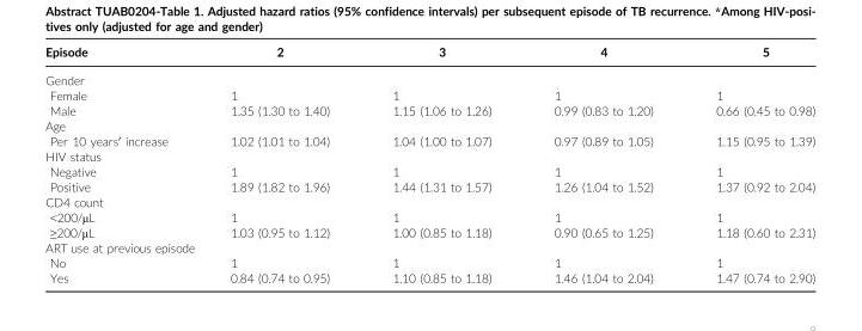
<table><thead><tr><td>Episode</td><td>2</td><td>3</td><td>4</td><td>5</td></tr></thead><tbody><tr><td colspan="5">Gender</td></tr><tr><td>Female</td><td>1</td><td>1</td><td>1</td><td>1</td></tr><tr><td>Male</td><td>1.35 (1.30 to 1.40)</td><td>1.15 (1.06 to 1.26)</td><td>0.99 (0.83 to 1.20)</td><td>0.66 (0.45 to 0.98)</td></tr><tr><td colspan="5">Age</td></tr><tr><td>Per 10 years′ increase</td><td>1.02 (1.01 to 1.04)</td><td>1.04 (1.00 to 1.07)</td><td>0.97 (0.89 to 1.05)</td><td>1.15 (0.95 to 1.39)</td></tr><tr><td colspan="5">HIV status</td></tr><tr><td>Negative</td><td>1</td><td>1</td><td>1</td><td>1</td></tr><tr><td>Positive</td><td>1.89 (1.82 to 1.96)</td><td>1.44 (1.31 to 1.57)</td><td>1.26 (1.04 to 1.52)</td><td>1.37 (0.92 to 2.04)</td></tr><tr><td colspan="5">CD4 count</td></tr><tr><td>&lt;200/μL</td><td>1</td><td>1</td><td>1</td><td>1</td></tr><tr><td>≥200/μL</td><td>1.03 (0.95 to 1.12)</td><td>1.00 (0.85 to 1.18)</td><td>0.90 (0.65 to 1.25)</td><td>1.18 (0.60 to 2.31)</td></tr><tr><td colspan="5">ART use at previous episode</td></tr><tr><td>No</td><td>1</td><td>1</td><td>1</td><td>1</td></tr><tr><td>Yes</td><td>0.84 (0.74 to 0.95)</td><td>1.10 (0.85 to 1.18)</td><td>1.46 (1.04 to 2.04)</td><td>1.47 (0.74 to 2.90)</td></tr></tbody></table>